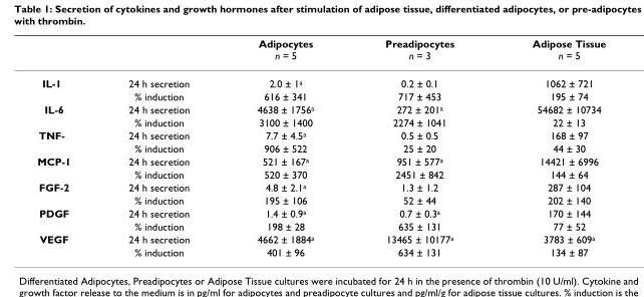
<table><thead><tr><td></td><td></td><td>Adipocytes n = 5</td><td>Preadipocytes n = 3</td><td>Adipose Tissue n = 5</td></tr></thead><tbody><tr><td rowspan="2">IL-1</td><td>24 h secretion</td><td>2.0 ± 1<sup>a</sup></td><td>0.2 ± 0.1</td><td>1062 ± 721</td></tr><tr><td>% induction</td><td>616 ± 341</td><td>717 ± 453</td><td>195 ± 74</td></tr><tr><td rowspan="2">IL-6</td><td>24 h secretion</td><td>4638 ± 1756<sup>a</sup></td><td>272 ± 201<sup>a</sup></td><td>54682 ± 10734</td></tr><tr><td>% induction</td><td>3100 ± 1400</td><td>2274 ± 1041</td><td>22 ± 13</td></tr><tr><td rowspan="2">TNF-</td><td>24 h secretion</td><td>7.7 ± 4.5<sup>a</sup></td><td>0.5 ± 0.5</td><td>168 ± 97</td></tr><tr><td>% induction</td><td>906 ± 522</td><td>25 ± 20</td><td>44 ± 30</td></tr><tr><td rowspan="2">MCP-1</td><td>24 h secretion</td><td>521 ± 167<sup>a</sup></td><td>951 ± 577<sup>a</sup></td><td>14421 ± 6996</td></tr><tr><td>% induction</td><td>520 ± 370</td><td>2451 ± 842</td><td>144 ± 64</td></tr><tr><td rowspan="2">FGF-2</td><td>24 h secretion</td><td>4.8 ± 2.1<sup>a</sup></td><td>1.3 ± 1.2</td><td>287 ± 104</td></tr><tr><td>% induction</td><td>195 ± 106</td><td>52 ± 44</td><td>202 ± 140</td></tr><tr><td rowspan="2">PDGF</td><td>24 h secretion</td><td>1.4 ± 0.9<sup>a</sup></td><td>0.7 ± 0.3<sup>a</sup></td><td>170 ± 144</td></tr><tr><td>% induction</td><td>198 ± 28</td><td>635 ± 131</td><td>77 ± 52</td></tr><tr><td rowspan="2">VEGF</td><td>24 h secretion</td><td>4662 ± 1884<sup>a</sup></td><td>13465 ± 10177<sup>a</sup></td><td>3783 ± 609<sup>a</sup></td></tr><tr><td>% induction</td><td>401 ± 96</td><td>634 ± 131</td><td>134 ± 87</td></tr></tbody></table>